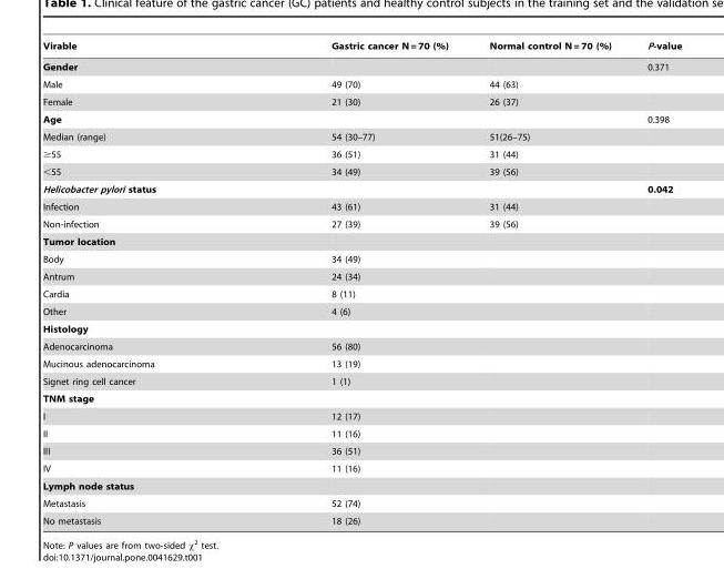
<table><thead><tr><td>Virable</td><td>Gastric cancer N = 70 (%)</td><td>Normal control N = 70 (%)</td><td>P-value</td></tr></thead><tbody><tr><td>Gender</td><td></td><td></td><td>0.371</td></tr><tr><td>Male</td><td>49 (70)</td><td>44 (63)</td><td></td></tr><tr><td>Female</td><td>21 (30)</td><td>26 (37)</td><td></td></tr><tr><td>Age</td><td></td><td></td><td>0.398</td></tr><tr><td>Median (range)</td><td>54 (30–77)</td><td>51(26–75)</td><td></td></tr><tr><td>≥55</td><td>36 (51)</td><td>31 (44)</td><td></td></tr><tr><td>&lt;55</td><td>34 (49)</td><td>39 (56)</td><td></td></tr><tr><td>Helicobacter pylori status</td><td></td><td></td><td>0.042</td></tr><tr><td>Infection</td><td>43 (61)</td><td>31 (44)</td><td></td></tr><tr><td>Non-infection</td><td>27 (39)</td><td>39 (56)</td><td></td></tr><tr><td colspan="4">Tumor location</td></tr><tr><td>Body</td><td>34 (49)</td><td></td><td></td></tr><tr><td>Antrum</td><td>24 (34)</td><td></td><td></td></tr><tr><td>Cardia</td><td>8 (11)</td><td></td><td></td></tr><tr><td>Other</td><td>4 (6)</td><td></td><td></td></tr><tr><td colspan="4">Histology</td></tr><tr><td>Adenocarcinoma</td><td>56 (80)</td><td></td><td></td></tr><tr><td>Mucinous adenocarcinoma</td><td>13 (19)</td><td></td><td></td></tr><tr><td>Signet ring cell cancer</td><td>1 (1)</td><td></td><td></td></tr><tr><td colspan="4">TNM stage</td></tr><tr><td>I</td><td>12 (17)</td><td></td><td></td></tr><tr><td>II</td><td>11 (16)</td><td></td><td></td></tr><tr><td>III</td><td>36 (51)</td><td></td><td></td></tr><tr><td>IV</td><td>11 (16)</td><td></td><td></td></tr><tr><td colspan="4">Lymph node status</td></tr><tr><td>Metastasis</td><td>52 (74)</td><td></td><td></td></tr><tr><td>No metastasis</td><td>18 (26)</td><td></td><td></td></tr></tbody></table>